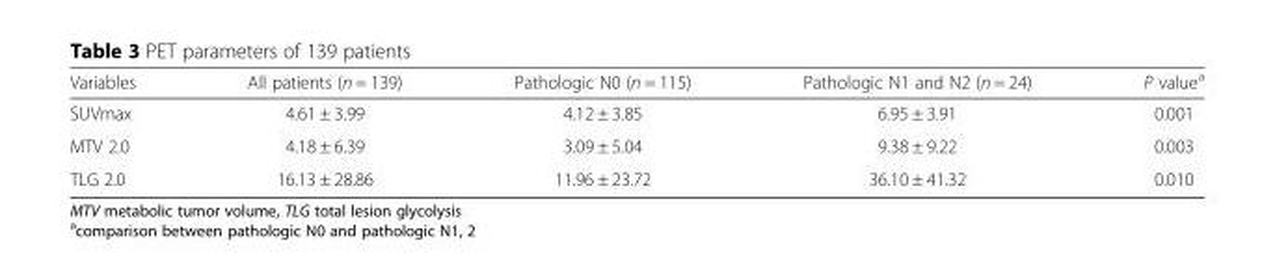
<table><thead><tr><td>Variables</td><td>All patients (n = 139)</td><td>Pathologic N0 (n = 115)</td><td>Pathologic N1 and N2 (n = 24)</td><td>P value<sup>a</sup></td></tr></thead><tbody><tr><td>SUVmax</td><td>4.61 ± 3.99</td><td>4.12 ± 3.85</td><td>6.95 ± 3.91</td><td>0.001</td></tr><tr><td>MTV 2.0</td><td>4.18 ± 6.39</td><td>3.09 ± 5.04</td><td>9.38 ± 9.22</td><td>0.003</td></tr><tr><td>TLG 2.0</td><td>16.13 ± 28.86</td><td>11.96 ± 23.72</td><td>36.10 ± 41.32</td><td>0.010</td></tr></tbody></table>